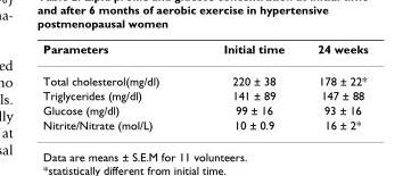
<table><thead><tr><td>Parameters</td><td>Initial time</td><td>24 weeks</td></tr></thead><tbody><tr><td>Total cholesterol(mg/dl)</td><td>220 ± 38</td><td>178 ± 22*</td></tr><tr><td>Triglycerides (mg/dl)</td><td>141 ± 89</td><td>147 ± 88</td></tr><tr><td>Glucose (mg/dl)</td><td>99 ± 16</td><td>93 ± 16</td></tr><tr><td>Nitrite/Nitrate (mol/L)</td><td>10 ± 0.9</td><td>16 ± 2*</td></tr></tbody></table>